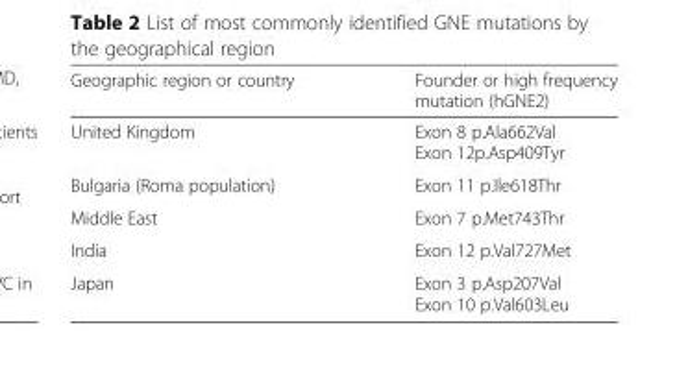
<table><thead><tr><td>Geographic region or country</td><td>Founder or high frequency mutation (hGNE2)</td></tr></thead><tbody><tr><td>United Kingdom</td><td>Exon 8 p.Ala662Val Exon 12p.Asp409Tyr</td></tr><tr><td>Bulgaria (Roma population)</td><td>Exon 11 p.Ile618Thr</td></tr><tr><td>Middle East</td><td>Exon 7 p.Met743Thr</td></tr><tr><td>India</td><td>Exon 12 p.Val727Met</td></tr><tr><td>Japan</td><td>Exon 3 p.Asp207Val Exon 10 p.Val603Leu</td></tr></tbody></table>